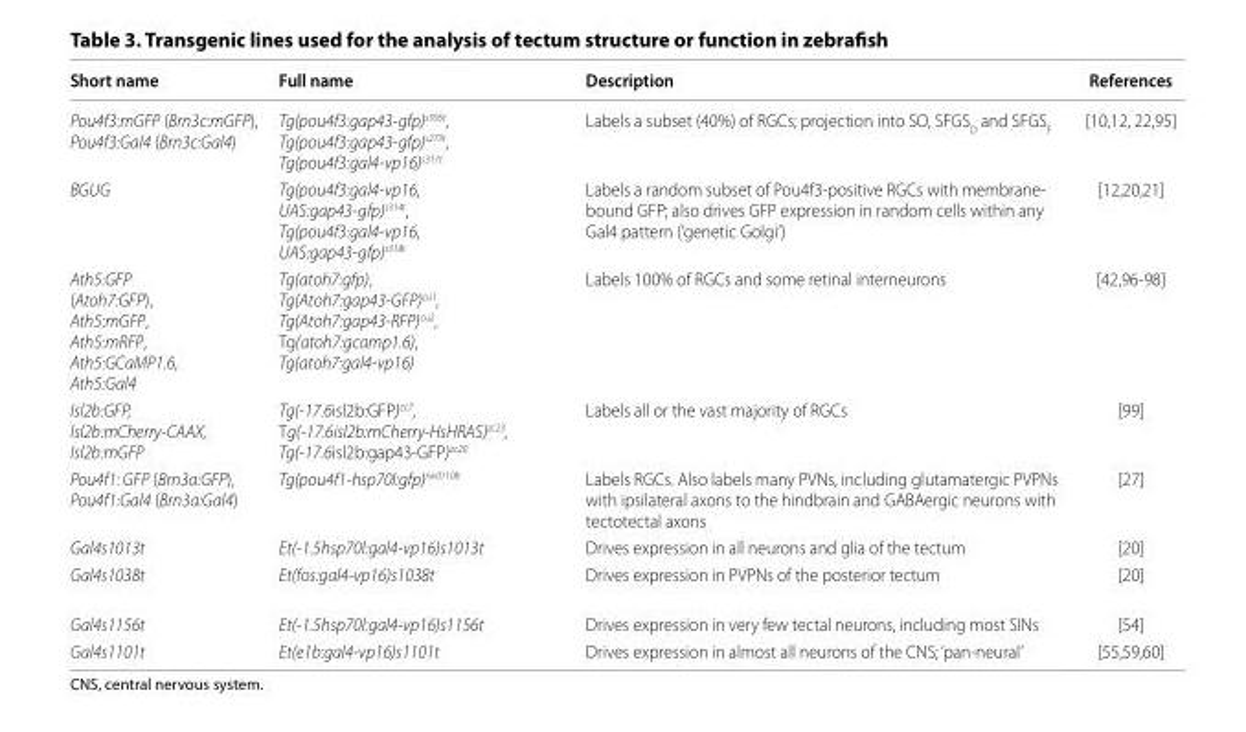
<table><thead><tr><td>Short name</td><td>Full name</td><td>Description</td><td>References</td></tr></thead><tbody><tr><td>Pou4f3:mGFP (Brn3c:mGFP), Pou4f3:Gal4 (Brn3c:Gal4)</td><td>Tg(pou4f3:gap43-gfp)<sup>s356t</sup>, Tg(pou4f3:gap43-gfp)<sup>s273t</sup>, Tg(pou4f3:gal4-vp16)<sup>s311t</sup></td><td>Labels a subset (40%) of RGCs; projection into SO, SFGS<sub>D</sub> and SFGS<sub>F</sub></td><td>[10,12, 22,95]</td></tr><tr><td>BGUG</td><td>Tg(pou4f3:gal4-vp16, UAS:gap43-gfp)<sup>s314t</sup>, Tg(pou4f3:gal4-vp16, UAS:gap43-gfp)<sup>s318t</sup></td><td>Labels a random subset of Pou4f3-positive RGCs with membrane- bound GFP; also drives GFP expression in random cells within any Gal4 pattern (‘genetic Golgi’)</td><td>[12,20,21]</td></tr><tr><td>Ath5:GFP (Atoh7:GFP), Ath5:mGFP, Ath5:mRFP, Ath5:GCaMP1.6, Ath5:Gal4</td><td>Tg(atoh7:gfp), Tg(Atoh7:gap43-GFP)<sup>cu1</sup>, Tg(Atoh7:gap43-RFP)<sup>cu2</sup>, Tg(atoh7:gcamp1.6), Tg(atoh7:gal4-vp16)</td><td>Labels 100% of RGCs and some retinal interneurons</td><td>[42,96-98]</td></tr><tr><td>Isl2b:GFP, Isl2b:mCherry-CAAX, Isl2b:mGFP</td><td>Tg(-17.6isl2b:GFP)zc7, Tg(-17.6isl2b:mCherry-HsHRAS)zc23, Tg(-17.6isl2b:gap43-GFP)zc20</td><td>Labels all or the vast majority of RGCs</td><td>[99]</td></tr><tr><td>Pou4f1: GFP (Brn3a:GFP), Pou4f1:Gal4 (Brn3a:Gal4)</td><td>Tg(pou4f1-hsp70l:gfp)<sup>rw0110b</sup></td><td>Labels RGCs. Also labels many PVNs, including glutamatergic PVPNs with ipsilateral axons to the hindbrain and GABAergic neurons with tectotectal axons</td><td>[27]</td></tr><tr><td>Gal4s1013t</td><td>Et(-1.5hsp70l:gal4-vp16)s1013t</td><td>Drives expression in all neurons and glia of the tectum</td><td>[20]</td></tr><tr><td>Gal4s1038t</td><td>Et(fos:gal4-vp16)s1038t</td><td>Drives expression in PVPNs of the posterior tectum</td><td>[20]</td></tr><tr><td>Gal4s1156t</td><td>Et(-1.5hsp70l:gal4-vp16)s1156t</td><td>Drives expression in very few tectal neurons, including most SINs</td><td>[54]</td></tr><tr><td>Gal4s1101t</td><td>Et(e1b:gal4-vp16)s1101t</td><td>Drives expression in almost all neurons of the CNS; ‘pan-neural’</td><td>[55,59,60]</td></tr></tbody></table>